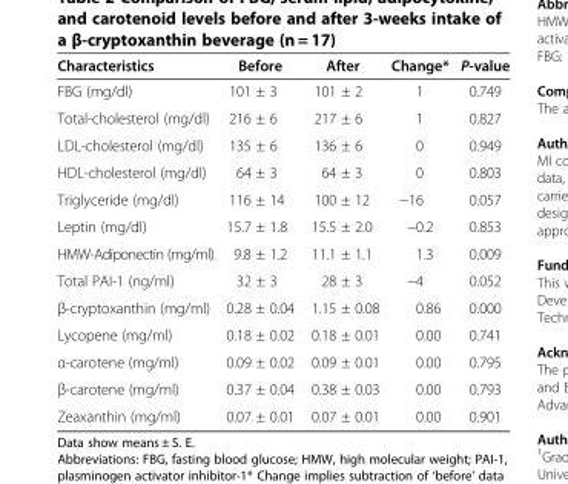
<table><thead><tr><td>Characteristics</td><td>Before</td><td>After</td><td>Change*</td><td>P-value</td></tr></thead><tbody><tr><td>FBG (mg/dl)</td><td>101 ± 3</td><td>101 ± 2</td><td>1</td><td>0.749</td></tr><tr><td>Total-cholesterol (mg/dl)</td><td>216 ± 6</td><td>217 ± 6</td><td>1</td><td>0.827</td></tr><tr><td>LDL-cholesterol (mg/dl)</td><td>135 ± 6</td><td>136 ± 6</td><td>0</td><td>0.949</td></tr><tr><td>HDL-cholesterol (mg/dl)</td><td>64 ± 3</td><td>64 ± 3</td><td>0</td><td>0.803</td></tr><tr><td>Triglyceride (mg/dl)</td><td>116 ± 14</td><td>100 ± 12</td><td>−16</td><td>0.057</td></tr><tr><td>Leptin (mg/dl)</td><td>15.7 ± 1.8</td><td>15.5 ± 2.0</td><td>−0.2</td><td>0.853</td></tr><tr><td>HMW-Adiponectin (mg/ml)</td><td>9.8 ± 1.2</td><td>11.1 ± 1.1</td><td>1.3</td><td>0.009</td></tr><tr><td>Total PAI-1 (ng/ml)</td><td>32 ± 3</td><td>28 ± 3</td><td>−4</td><td>0.052</td></tr><tr><td>β-cryptoxanthin (mg/ml)</td><td>0.28 ± 0.04</td><td>1.15 ± 0.08</td><td>0.86</td><td>0.000</td></tr><tr><td>Lycopene (mg/ml)</td><td>0.18 ± 0.02</td><td>0.18 ± 0.01</td><td>0.00</td><td>0.741</td></tr><tr><td>α-carotene (mg/ml)</td><td>0.09 ± 0.02</td><td>0.09 ± 0.01</td><td>0.00</td><td>0.795</td></tr><tr><td>β-carotene (mg/ml)</td><td>0.37 ± 0.04</td><td>0.38 ± 0.03</td><td>0.00</td><td>0.793</td></tr><tr><td>Zeaxanthin (mg/ml)</td><td>0.07 ± 0.01</td><td>0.07 ± 0.01</td><td>0.00</td><td>0.901</td></tr></tbody></table>